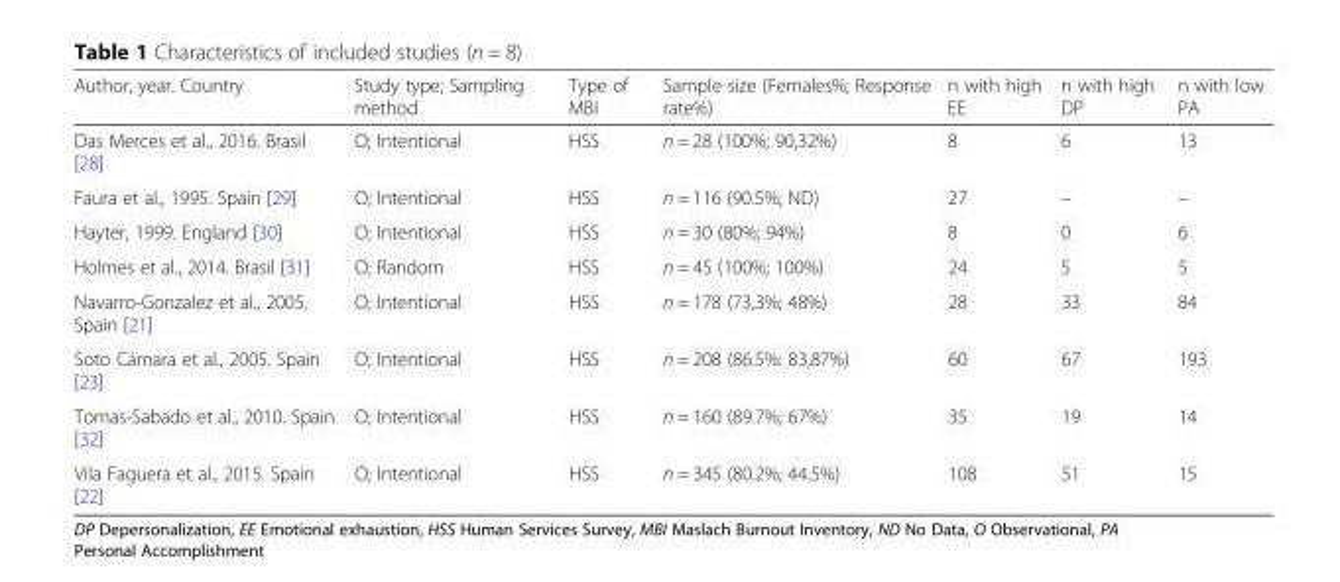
<table><thead><tr><td>Author, year. Country</td><td>Study type; Sampling method</td><td>Type of MBI</td><td>Sample size (Females%; Response rate%)</td><td>n with high EE</td><td>n with high DP</td><td>n with low PA</td></tr></thead><tbody><tr><td>Das Merces et al., 2016. Brasil [28]</td><td>O; Intentional</td><td>HSS</td><td>n = 28 (100%; 90,32%)</td><td>8</td><td>6</td><td>13</td></tr><tr><td>Faura et al., 1995. Spain [29]</td><td>O; Intentional</td><td>HSS</td><td>n = 116 (90.5%; ND)</td><td>27</td><td>–</td><td>–</td></tr><tr><td>Hayter, 1999. England [30]</td><td>O; Intentional</td><td>HSS</td><td>n = 30 (80%; 94%)</td><td>8</td><td>0</td><td>6</td></tr><tr><td>Holmes et al., 2014. Brasil [31]</td><td>O; Random</td><td>HSS</td><td>n = 45 (100%; 100%)</td><td>24</td><td>5</td><td>5</td></tr><tr><td>Navarro-Gonzalez et al., 2005. Spain [21]</td><td>O; Intentional</td><td>HSS</td><td>n = 178 (73,3%; 48%)</td><td>28</td><td>33</td><td>84</td></tr><tr><td>Soto Cámara et al., 2005. Spain [23]</td><td>O; Intentional</td><td>HSS</td><td>n = 208 (86.5%: 83,87%)</td><td>60</td><td>67</td><td>193</td></tr><tr><td>Tomas-Sabado et al., 2010. Spain [32]</td><td>O; Intentional</td><td>HSS</td><td>n = 160 (89.7%; 67%)</td><td>35</td><td>19</td><td>14</td></tr><tr><td>Vila Faguera et al., 2015. Spain [22]</td><td>O; Intentional</td><td>HSS</td><td>n = 345 (80.2%; 44.5%)</td><td>108</td><td>51</td><td>15</td></tr></tbody></table>